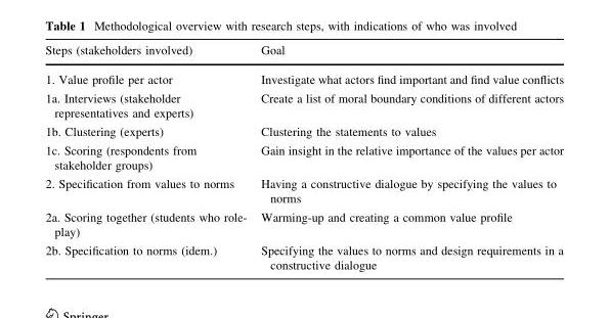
<table><thead><tr><td>Steps (stakeholders involved)</td><td>Goal</td></tr></thead><tbody><tr><td>1. Value profile per actor</td><td>Investigate what actors find important and find value conflicts</td></tr><tr><td>1a. Interviews (stakeholder representatives and experts)</td><td>Create a list of moral boundary conditions of different actors</td></tr><tr><td>1b. Clustering (experts)</td><td>Clustering the statements to values</td></tr><tr><td>1c. Scoring (respondents from stakeholder groups)</td><td>Gain insight in the relative importance of the values per actor</td></tr><tr><td>2. Specification from values to norms</td><td>Having a constructive dialogue by specifying the values to norms</td></tr><tr><td>2a. Scoring together (students who role- play)</td><td>Warming-up and creating a common value profile</td></tr><tr><td>2b. Specification to norms (idem.)</td><td>Specifying the values to norms and design requirements in a constructive dialogue</td></tr></tbody></table>